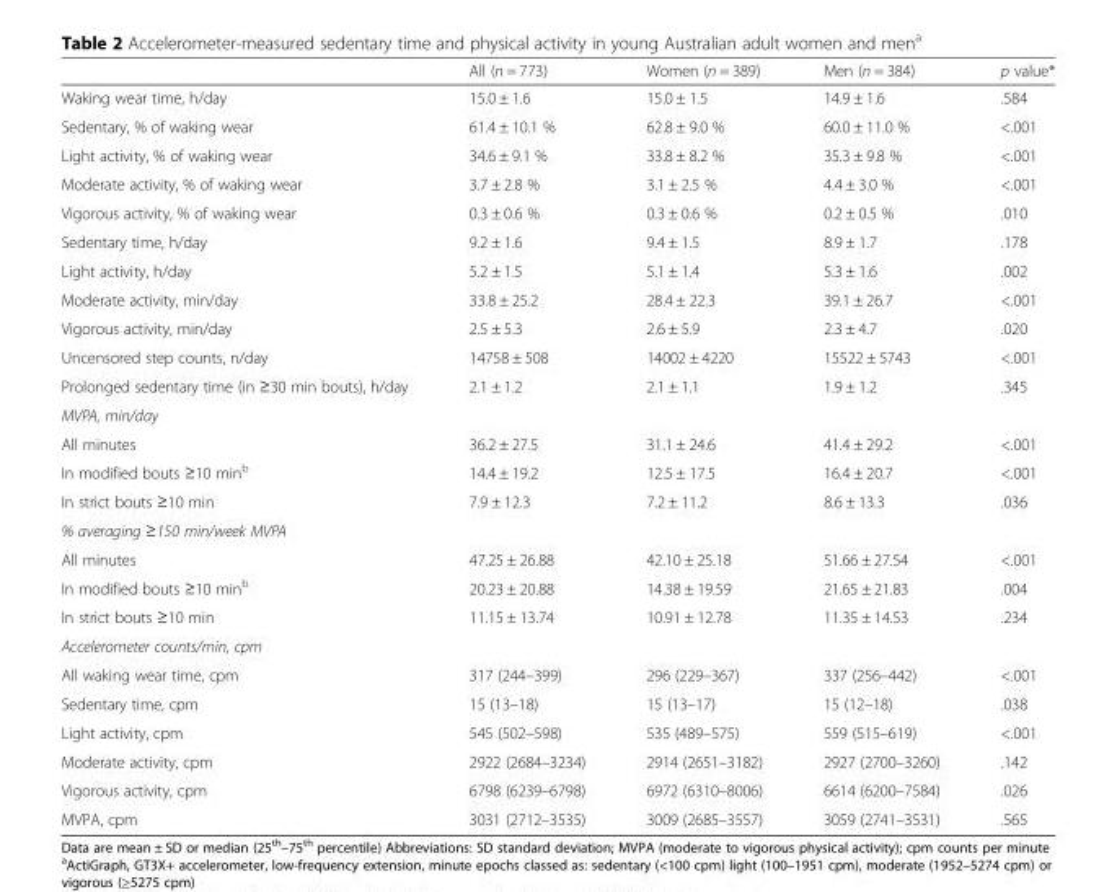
<table><thead><tr><td></td><td>All (n = 773)</td><td>Women (n = 389)</td><td>Men (n = 384)</td><td>p value*</td></tr></thead><tbody><tr><td>Waking wear time, h/day</td><td>15.0 ± 1.6</td><td>15.0 ± 1.5</td><td>14.9 ± 1.6</td><td>.584</td></tr><tr><td>Sedentary, % of waking wear</td><td>61.4 ± 10.1 %</td><td>62.8 ± 9.0 %</td><td>60.0 ± 11.0 %</td><td>&lt;.001</td></tr><tr><td>Light activity, % of waking wear</td><td>34.6 ± 9.1 %</td><td>33.8 ± 8.2 %</td><td>35.3 ± 9.8 %</td><td>&lt;.001</td></tr><tr><td>Moderate activity, % of waking wear</td><td>3.7 ± 2.8 %</td><td>3.1 ± 2.5 %</td><td>4.4 ± 3.0 %</td><td>&lt;.001</td></tr><tr><td>Vigorous activity, % of waking wear</td><td>0.3 ± 0.6 %</td><td>0.3 ± 0.6 %</td><td>0.2 ± 0.5 %</td><td>.010</td></tr><tr><td>Sedentary time, h/day</td><td>9.2 ± 1.6</td><td>9.4 ± 1.5</td><td>8.9 ± 1.7</td><td>.178</td></tr><tr><td>Light activity, h/day</td><td>5.2 ± 1.5</td><td>5.1 ± 1.4</td><td>5.3 ± 1.6</td><td>.002</td></tr><tr><td>Moderate activity, min/day</td><td>33.8 ± 25.2</td><td>28.4 ± 22.3</td><td>39.1 ± 26.7</td><td>&lt;.001</td></tr><tr><td>Vigorous activity, min/day</td><td>2.5 ± 5.3</td><td>2.6 ± 5.9</td><td>2.3 ± 4.7</td><td>.020</td></tr><tr><td>Uncensored step counts, n/day</td><td>14758 ± 508</td><td>14002 ± 4220</td><td>15522 ± 5743</td><td>&lt;.001</td></tr><tr><td>Prolonged sedentary time (in ≥30 min bouts), h/day</td><td>2.1 ± 1.2</td><td>2.1 ± 1.1</td><td>1.9 ± 1.2</td><td>.345</td></tr><tr><td colspan="5">MVPA, min/day</td></tr><tr><td>All minutes</td><td>36.2 ± 27.5</td><td>31.1 ± 24.6</td><td>41.4 ± 29.2</td><td>&lt;.001</td></tr><tr><td>In modified bouts ≥10 min<sup>b</sup></td><td>14.4 ± 19.2</td><td>12.5 ± 17.5</td><td>16.4 ± 20.7</td><td>&lt;.001</td></tr><tr><td>In strict bouts ≥10 min</td><td>7.9 ± 12.3</td><td>7.2 ± 11.2</td><td>8.6 ± 13.3</td><td>.036</td></tr><tr><td colspan="5">% averaging ≥150 min/week MVPA</td></tr><tr><td>All minutes</td><td>47.25 ± 26.88</td><td>42.10 ± 25.18</td><td>51.66 ± 27.54</td><td>&lt;.001</td></tr><tr><td>In modified bouts ≥10 min<sup>b</sup></td><td>20.23 ± 20.88</td><td>14.38 ± 19.59</td><td>21.65 ± 21.83</td><td>.004</td></tr><tr><td>In strict bouts ≥10 min</td><td>11.15 ± 13.74</td><td>10.91 ± 12.78</td><td>11.35 ± 14.53</td><td>.234</td></tr><tr><td colspan="5">Accelerometer counts/min, cpm</td></tr><tr><td>All waking wear time, cpm</td><td>317 (244–399)</td><td>296 (229–367)</td><td>337 (256–442)</td><td>&lt;.001</td></tr><tr><td>Sedentary time, cpm</td><td>15 (13–18)</td><td>15 (13–17)</td><td>15 (12–18)</td><td>.038</td></tr><tr><td>Light activity, cpm</td><td>545 (502–598)</td><td>535 (489–575)</td><td>559 (515–619)</td><td>&lt;.001</td></tr><tr><td>Moderate activity, cpm</td><td>2922 (2684–3234)</td><td>2914 (2651–3182)</td><td>2927 (2700–3260)</td><td>.142</td></tr><tr><td>Vigorous activity, cpm</td><td>6798 (6239–6798)</td><td>6972 (6310–8006)</td><td>6614 (6200–7584)</td><td>.026</td></tr><tr><td>MVPA, cpm</td><td>3031 (2712–3535)</td><td>3009 (2685–3557)</td><td>3059 (2741–3531)</td><td>.565</td></tr></tbody></table>